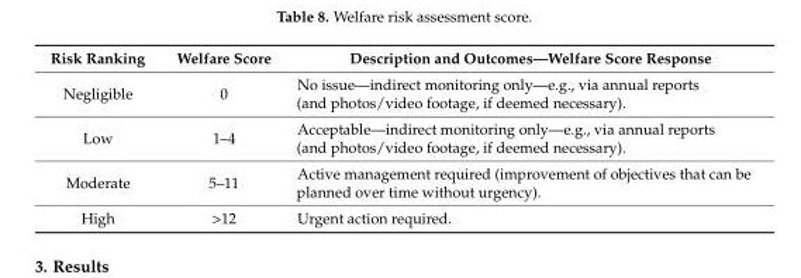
<table><thead><tr><td>Risk Ranking</td><td>Welfare Score</td><td>Description and Outcomes—Welfare Score Response</td></tr></thead><tbody><tr><td>Negligible</td><td>0</td><td>No issue—indirect monitoring only—e.g., via annual reports (and photos/video footage, if deemed necessary).</td></tr><tr><td>Low</td><td>1–4</td><td>Acceptable—indirect monitoring only—e.g., via annual reports (and photos/video footage, if deemed necessary).</td></tr><tr><td>Moderate</td><td>5–11</td><td>Active management required (improvement of objectives that can be planned over time without urgency).</td></tr><tr><td>High</td><td>&gt;12</td><td>Urgent action required.</td></tr></tbody></table>